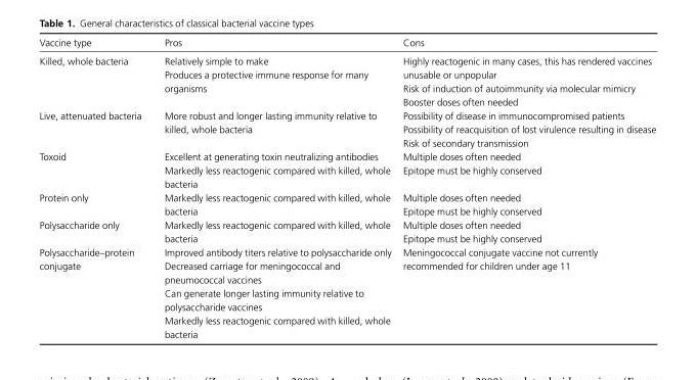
<table><thead><tr><td>Vaccine type</td><td>Pros</td><td>Cons</td></tr></thead><tbody><tr><td>Killed, whole bacteria</td><td>Relatively simple to make Produces a protective immune response for many organisms</td><td>Highly reactogenic in many cases, this has rendered vaccines unusable or unpopular Risk of induction of autoimmunity via molecular mimicry Booster doses often needed</td></tr><tr><td>Live, attenuated bacteria</td><td>More robust and longer lasting immunity relative to killed, whole bacteria</td><td>Possibility of disease in immunocompromised patients Possibility of reacquisition of lost virulence resulting in disease Risk of secondary transmission</td></tr><tr><td>Toxoid</td><td>Excellent at generating toxin neutralizing antibodies Markedly less reactogenic compared with killed, whole bacteria</td><td>Multiple doses often needed Epitope must be highly conserved</td></tr><tr><td>Protein only</td><td>Markedly less reactogenic compared with killed, whole bacteria</td><td>Multiple doses often needed Epitope must be highly conserved</td></tr><tr><td>Polysaccharide only</td><td>Markedly less reactogenic compared with killed, whole bacteria</td><td>Multiple doses often needed Epitope must be highly conserved</td></tr><tr><td>Polysaccharide–protein conjugate</td><td>Improved antibody titers relative to polysaccharide only Decreased carriage for meningococcal and pneumococcal vaccines Can generate longer lasting immunity relative to polysaccharide vaccines Markedly less reactogenic compared with killed, whole bacteria</td><td>Meningococcal conjugate vaccine not currently recommended for children under age 11</td></tr></tbody></table>